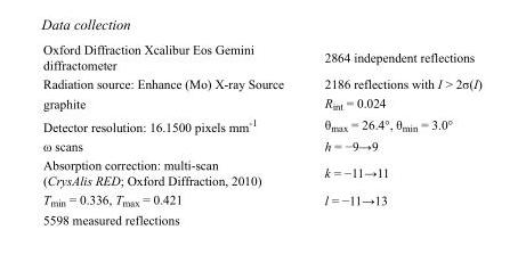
<table><tbody><tr><td>Oxford Diffraction Xcalibur Eos Gemini diffractometer</td><td>2864 independent reflections</td></tr><tr><td>Radiation source: Enhance (Mo) X-ray Source</td><td>2186 reflections with I &gt; 2σ(I)</td></tr><tr><td>graphite</td><td>R<sub>int</sub> = 0.024</td></tr><tr><td>Detector resolution: 16.1500 pixels mm<sup>-1</sup></td><td>θ<sub>max</sub> = 26.4°, θ<sub>min</sub> = 3.0°</td></tr><tr><td>ω scans</td><td>h = −9→9</td></tr><tr><td>Absorption correction: multi-scan (CrysAlis RED; Oxford Diffraction, 2010)</td><td>k = −11→11</td></tr><tr><td>T<sub>min</sub> = 0.336, T<sub>max</sub> = 0.421</td><td>l = −11→13</td></tr><tr><td>5598 measured reflections</td><td></td></tr></tbody></table>